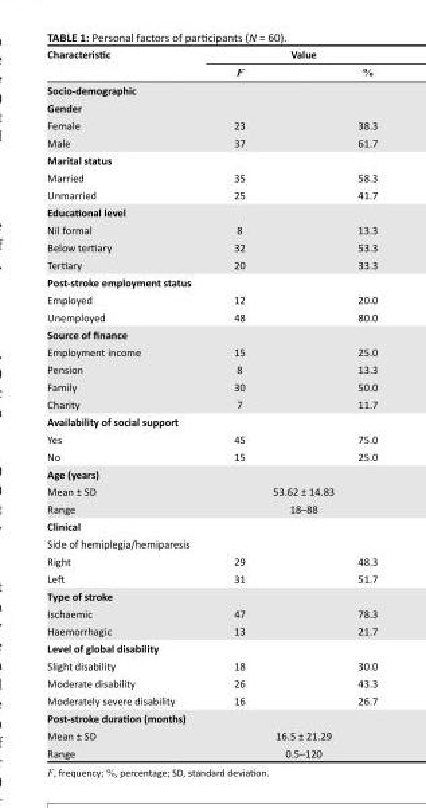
<table><thead><tr><td rowspan="2">Characteristic</td><td colspan="2">Value</td></tr><tr><td>F</td><td>%</td></tr></thead><tbody><tr><td colspan="3">Socio-demographic</td></tr><tr><td colspan="3">Gender</td></tr><tr><td>Female</td><td>23</td><td>38.3</td></tr><tr><td>Male</td><td>37</td><td>61.7</td></tr><tr><td colspan="3">Marital status</td></tr><tr><td>Married</td><td>35</td><td>58.3</td></tr><tr><td>Unmarried</td><td>25</td><td>41.7</td></tr><tr><td colspan="3">Educational level</td></tr><tr><td>Nil formal</td><td>8</td><td>13.3</td></tr><tr><td>Below tertiary</td><td>32</td><td>53.3</td></tr><tr><td>Tertiary</td><td>20</td><td>33.3</td></tr><tr><td colspan="3">Post-stroke employment status</td></tr><tr><td>Employed</td><td>12</td><td>20.0</td></tr><tr><td>Unemployed</td><td>48</td><td>80.0</td></tr><tr><td colspan="3">Source of finance</td></tr><tr><td>Employment income</td><td>15</td><td>25.0</td></tr><tr><td>Pension</td><td>8</td><td>13.3</td></tr><tr><td>Family</td><td>30</td><td>50.0</td></tr><tr><td>Charity</td><td>7</td><td>11.7</td></tr><tr><td colspan="3">Availability of social support</td></tr><tr><td>Yes</td><td>45</td><td>75.0</td></tr><tr><td>No</td><td>15</td><td>25.0</td></tr><tr><td colspan="3">Age (years)</td></tr><tr><td>Mean ± SD</td><td colspan="2">53.62 ± 14.83</td></tr><tr><td>Range</td><td colspan="2">18–88</td></tr><tr><td colspan="3">Clinical</td></tr><tr><td colspan="3">Side of hemiplegia/hemiparesis</td></tr><tr><td>Right</td><td>29</td><td>48.3</td></tr><tr><td>Left</td><td>31</td><td>51.7</td></tr><tr><td colspan="3">Type of stroke</td></tr><tr><td>Ischaemic</td><td>47</td><td>78.3</td></tr><tr><td>Haemorrhagic</td><td>13</td><td>21.7</td></tr><tr><td colspan="3">Level of global disability</td></tr><tr><td>Slight disability</td><td>18</td><td>30.0</td></tr><tr><td>Moderate disability</td><td>26</td><td>43.3</td></tr><tr><td>Moderately severe disability</td><td>16</td><td>26.7</td></tr><tr><td colspan="3">Post-stroke duration (months)</td></tr><tr><td>Mean ± SD</td><td colspan="2">16.5 ± 21.29</td></tr><tr><td>Range</td><td colspan="2">0.5–120</td></tr></tbody></table>